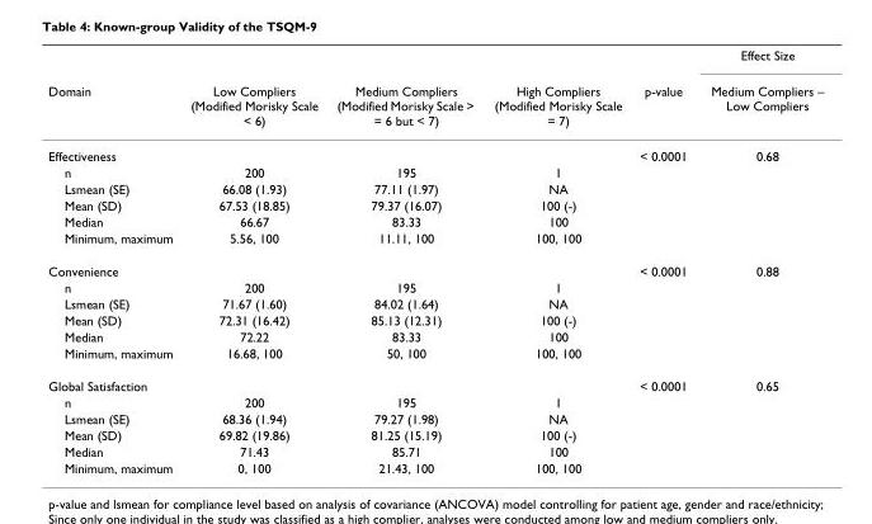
<table><thead><tr><td rowspan="2">Domain</td><td rowspan="2">Low Compliers (Modified Morisky Scale &lt; 6)</td><td rowspan="2">Medium Compliers (Modified Morisky Scale &gt; = 6 but &lt; 7)</td><td rowspan="2">High Compliers (Modified Morisky Scale = 7)</td><td rowspan="2">p-value</td><td rowspan="2">Effect Size Medium Compliers – Low Compliers</td></tr><tr></tr></thead><tbody><tr><td>Effectiveness</td><td></td><td></td><td></td><td>&lt; 0.0001</td><td>0.68</td></tr><tr><td>n</td><td>200</td><td>195</td><td>1</td><td></td><td></td></tr><tr><td>Lsmean (SE)</td><td>66.08 (1.93)</td><td>77.11 (1.97)</td><td>NA</td><td></td><td></td></tr><tr><td>Mean (SD)</td><td>67.53 (18.85)</td><td>79.37 (16.07)</td><td>100 (-)</td><td></td><td></td></tr><tr><td>Median</td><td>66.67</td><td>83.33</td><td>100</td><td></td><td></td></tr><tr><td>Minimum, maximum</td><td>5.56, 100</td><td>11.11, 100</td><td>100, 100</td><td></td><td></td></tr><tr><td>Convenience</td><td></td><td></td><td></td><td>&lt; 0.0001</td><td>0.88</td></tr><tr><td>n</td><td>200</td><td>195</td><td>1</td><td></td><td></td></tr><tr><td>Lsmean (SE)</td><td>71.67 (1.60)</td><td>84.02 (1.64)</td><td>NA</td><td></td><td></td></tr><tr><td>Mean (SD)</td><td>72.31 (16.42)</td><td>85.13 (12.31)</td><td>100 (-)</td><td></td><td></td></tr><tr><td>Median</td><td>72.22</td><td>83.33</td><td>100</td><td></td><td></td></tr><tr><td>Minimum, maximum</td><td>16.68, 100</td><td>50, 100</td><td>100, 100</td><td></td><td></td></tr><tr><td>Global Satisfaction</td><td></td><td></td><td></td><td>&lt; 0.0001</td><td>0.65</td></tr><tr><td>n</td><td>200</td><td>195</td><td>1</td><td></td><td></td></tr><tr><td>Lsmean (SE)</td><td>68.36 (1.94)</td><td>79.27 (1.98)</td><td>NA</td><td></td><td></td></tr><tr><td>Mean (SD)</td><td>69.82 (19.86)</td><td>81.25 (15.19)</td><td>100 (-)</td><td></td><td></td></tr><tr><td>Median</td><td>71.43</td><td>85.71</td><td>100</td><td></td><td></td></tr><tr><td>Minimum, maximum</td><td>0, 100</td><td>21.43, 100</td><td>100, 100</td><td></td><td></td></tr></tbody></table>